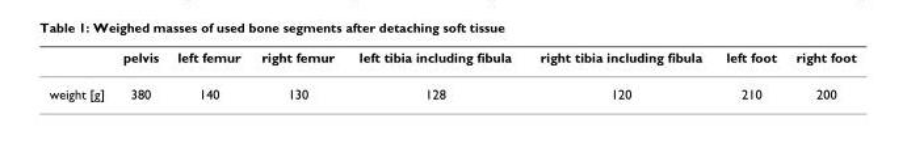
<table><thead><tr><td></td><td>pelvis</td><td>left femur</td><td>right femur</td><td>left tibia including fibula</td><td>right tibia including fibula</td><td>left foot</td><td>right foot</td></tr></thead><tbody><tr><td>weight [g]</td><td>380</td><td>140</td><td>130</td><td>128</td><td>120</td><td>210</td><td>200</td></tr></tbody></table>